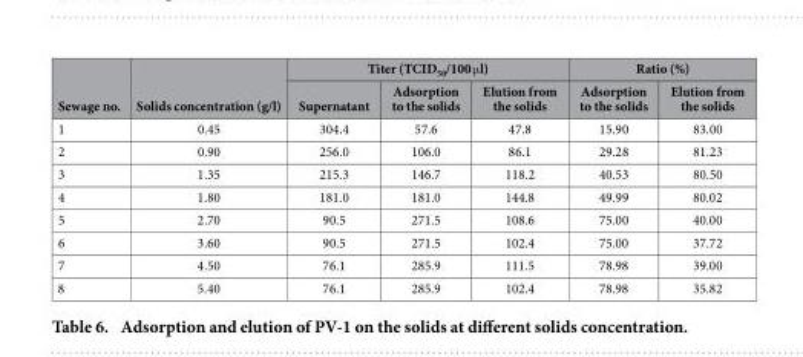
<table><thead><tr><td rowspan="2">Sewage no.</td><td rowspan="2">Solids concentration (g/l)</td><td colspan="3">Titer (TCID<sub>50</sub>/100 μ l)</td><td colspan="2">Ratio (%)</td></tr><tr><td>Supernatant</td><td>Adsorption to the solids</td><td>Elution from the solids</td><td>Adsorption to the solids</td><td>Elution from the solids</td></tr></thead><tbody><tr><td>1</td><td>0.45</td><td>304.4</td><td>57.6</td><td>47.8</td><td>15.90</td><td>83.00</td></tr><tr><td>2</td><td>0.90</td><td>256.0</td><td>106.0</td><td>86.1</td><td>29.28</td><td>81.23</td></tr><tr><td>3</td><td>1.35</td><td>215.3</td><td>146.7</td><td>118.2</td><td>40.53</td><td>80.50</td></tr><tr><td>4</td><td>1.80</td><td>181.0</td><td>181.0</td><td>144.8</td><td>49.99</td><td>80.02</td></tr><tr><td>5</td><td>2.70</td><td>90.5</td><td>271.5</td><td>108.6</td><td>75.00</td><td>40.00</td></tr><tr><td>6</td><td>3.60</td><td>90.5</td><td>271.5</td><td>102.4</td><td>75.00</td><td>37.72</td></tr><tr><td>7</td><td>4.50</td><td>76.1</td><td>285.9</td><td>111.5</td><td>78.98</td><td>39.00</td></tr><tr><td>8</td><td>5.40</td><td>76.1</td><td>285.9</td><td>102.4</td><td>78.98</td><td>35.82</td></tr></tbody></table>